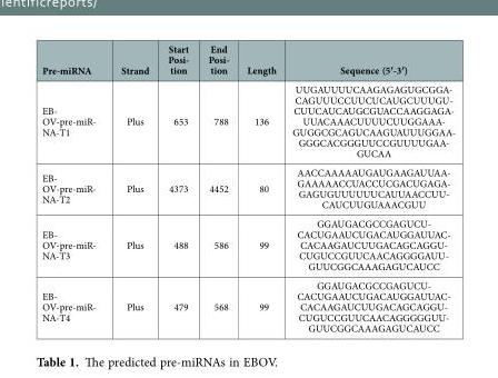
<table><thead><tr><td>Pre-miRNA</td><td>Strand</td><td>Start Posi- tion</td><td>End Posi- tion</td><td>Length</td><td>Sequence (5′-3′)</td></tr></thead><tbody><tr><td>EB- OV-pre-miR- NA-T1</td><td>Plus</td><td>653</td><td>788</td><td>136</td><td>UUGAUUUUCAAGAGAGUGCGGA- CAGUUUCCUUCUCAUGCUUUGU- CUUCAUCAUGCGUACCAAGGAGA- UUACAAACUUUUCUUGGAAA- GUGGCGCAGUCAAGUAUUUGGAA- GGGCACGGGUUCCGUUUUGAA- GUCAA</td></tr><tr><td>EB- OV-pre-miR- NA-T2</td><td>Plus</td><td>4373</td><td>4452</td><td>80</td><td>AACCAAAAAUGAUGAAGAUUAA- GAAAAACCUACCUCGACUGAGA- GAGUGUUUUUUCAUUAACCUU- CAUCUUGUAAACGUU</td></tr><tr><td>EB- OV-pre-miR- NA-T3</td><td>Plus</td><td>488</td><td>586</td><td>99</td><td>GGAUGACGCCGAGUCU- CACUGAAUCUGACAUGGAUUAC- CACAAGAUCUUGACAGCAGGU- CUGUCCGUUCAACAGGGGAUU- GUUCGGCAAAGAGUCAUCC</td></tr><tr><td>EB- OV-pre-miR- NA-T4</td><td>Plus</td><td>479</td><td>568</td><td>99</td><td>GGAUGACGCCGAGUCU- CACUGAAUCUGACAUGGAUUAC- CACAAGAUCUUGACAGCAGGU- CUGUCCGUUCAACAGGGGGUU- GUUCGGCAAAGAGUCAUCC</td></tr></tbody></table>